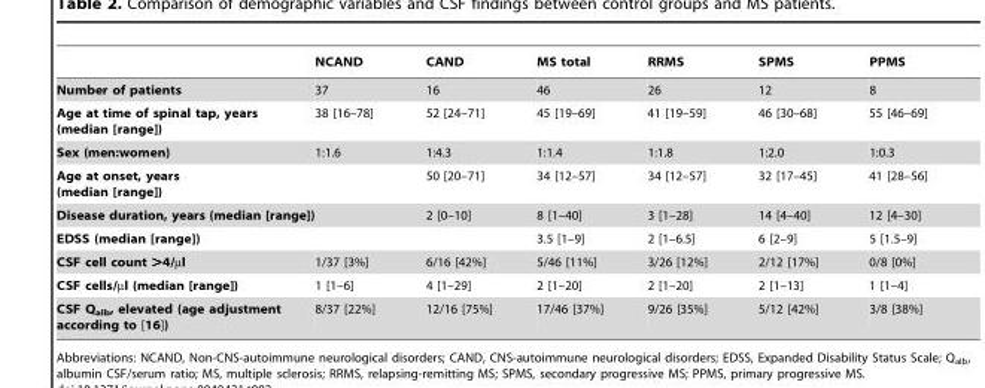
<table><thead><tr><td></td><td>NCAND</td><td>CAND</td><td>MS total</td><td>RRMS</td><td>SPMS</td><td>PPMS</td></tr></thead><tbody><tr><td>Number of patients</td><td>37</td><td>16</td><td>46</td><td>26</td><td>12</td><td>8</td></tr><tr><td>Age at time of spinal tap, years (median [range])</td><td>38 [16–78]</td><td>52 [24–71]</td><td>45 [19–69]</td><td>41 [19–59]</td><td>46 [30–68]</td><td>55 [46–69]</td></tr><tr><td>Sex (men:women)</td><td>1:1.6</td><td>1:4.3</td><td>1:1.4</td><td>1:1.8</td><td>1:2.0</td><td>1:0.3</td></tr><tr><td>Age at onset, years (median [range])</td><td></td><td>50 [20–71]</td><td>34 [12–57]</td><td>34 [12–57]</td><td>32 [17–45]</td><td>41 [28–56]</td></tr><tr><td>Disease duration, years (median [range])</td><td></td><td>2 [0–10]</td><td>8 [1–40]</td><td>3 [1–28]</td><td>14 [4–40]</td><td>12 [4–30]</td></tr><tr><td>EDSS (median [range])</td><td></td><td></td><td>3.5 [1–9]</td><td>2 [1–6.5]</td><td>6 [2–9]</td><td>5 [1.5–9]</td></tr><tr><td>CSF cell count &gt;4/µl</td><td>1/37 [3%]</td><td>6/16 [42%]</td><td>5/46 [11%]</td><td>3/26 [12%]</td><td>2/12 [17%]</td><td>0/8 [0%]</td></tr><tr><td>CSF cells/µl (median [range])</td><td>1 [1–6]</td><td>4 [1–29]</td><td>2 [1–20]</td><td>2 [1–20]</td><td>2 [1–13]</td><td>1 [1–4]</td></tr><tr><td>CSF Q<sub>alb</sub>, elevated (age adjustment according to [16])</td><td>8/37 [22%]</td><td>12/16 [75%]</td><td>17/46 [37%]</td><td>9/26 [35%]</td><td>5/12 [42%]</td><td>3/8 [38%]</td></tr></tbody></table>